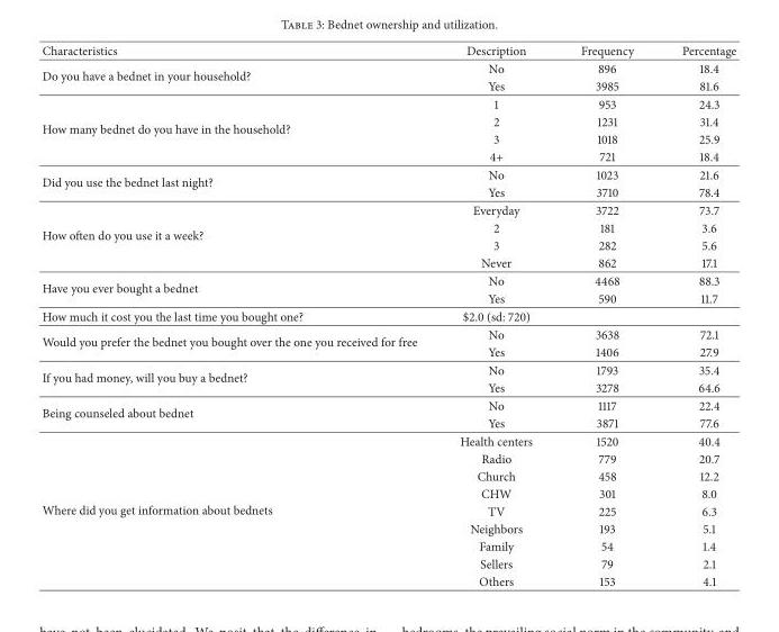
<table><thead><tr><td>Characteristics</td><td>Description</td><td>Frequency</td><td>Percentage</td></tr></thead><tbody><tr><td rowspan="2">Do you have a bednet in your household?</td><td>No</td><td>896</td><td>18.4</td></tr><tr><td>Yes</td><td>3985</td><td>81.6</td></tr><tr><td rowspan="4">How many bednet do you have in the household?</td><td>1</td><td>953</td><td>24.3</td></tr><tr><td>2</td><td>1231</td><td>31.4</td></tr><tr><td>3</td><td>1018</td><td>25.9</td></tr><tr><td>4+</td><td>721</td><td>18.4</td></tr><tr><td rowspan="2">Did you use the bednet last night?</td><td>No</td><td>1023</td><td>21.6</td></tr><tr><td>Yes</td><td>3710</td><td>78.4</td></tr><tr><td rowspan="4">How often do you use it a week?</td><td>Everyday</td><td>3722</td><td>73.7</td></tr><tr><td>2</td><td>181</td><td>3.6</td></tr><tr><td>3</td><td>282</td><td>5.6</td></tr><tr><td>Never</td><td>862</td><td>17.1</td></tr><tr><td rowspan="2">Have you ever bought a bednet</td><td>No</td><td>4468</td><td>88.3</td></tr><tr><td>Yes</td><td>590</td><td>11.7</td></tr><tr><td>How much it cost you the last time you bought one?</td><td>$2.0 (sd: 720)</td><td></td><td></td></tr><tr><td rowspan="2">Would you prefer the bednet you bought over the one you received for free</td><td>No</td><td>3638</td><td>72.1</td></tr><tr><td>Yes</td><td>1406</td><td>27.9</td></tr><tr><td rowspan="2">If you had money, will you buy a bednet?</td><td>No</td><td>1793</td><td>35.4</td></tr><tr><td>Yes</td><td>3278</td><td>64.6</td></tr><tr><td rowspan="2">Being counseled about bednet</td><td>No</td><td>1117</td><td>22.4</td></tr><tr><td>Yes</td><td>3871</td><td>77.6</td></tr><tr><td rowspan="9">Where did you get information about bednets</td><td>Health centers</td><td>1520</td><td>40.4</td></tr><tr><td>Radio</td><td>779</td><td>20.7</td></tr><tr><td>Church</td><td>458</td><td>12.2</td></tr><tr><td>CHW</td><td>301</td><td>8.0</td></tr><tr><td>TV</td><td>225</td><td>6.3</td></tr><tr><td>Neighbors</td><td>193</td><td>5.1</td></tr><tr><td>Family</td><td>54</td><td>1.4</td></tr><tr><td>Sellers</td><td>79</td><td>2.1</td></tr><tr><td>Others</td><td>153</td><td>4.1</td></tr></tbody></table>